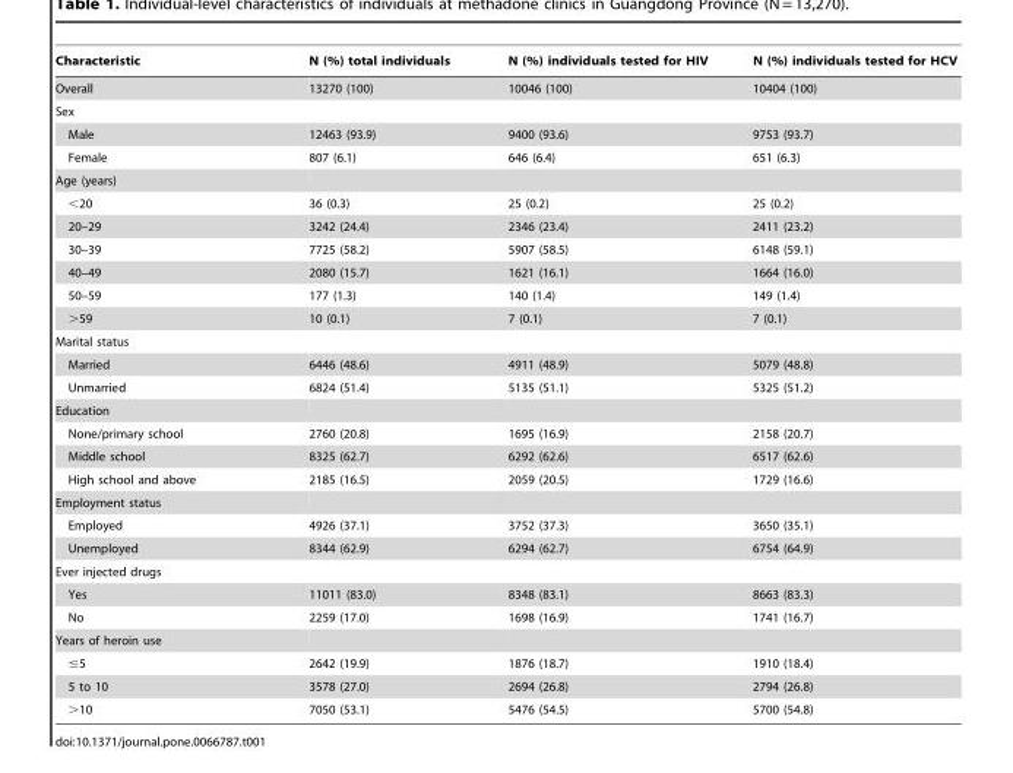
<table><thead><tr><td>Characteristic</td><td>N (%) total individuals</td><td>N (%) individuals tested for HIV</td><td>N (%) individuals tested for HCV</td></tr></thead><tbody><tr><td>Overall</td><td>13270 (100)</td><td>10046 (100)</td><td>10404 (100)</td></tr><tr><td colspan="4">Sex</td></tr><tr><td>Male</td><td>12463 (93.9)</td><td>9400 (93.6)</td><td>9753 (93.7)</td></tr><tr><td>Female</td><td>807 (6.1)</td><td>646 (6.4)</td><td>651 (6.3)</td></tr><tr><td colspan="4">Age (years)</td></tr><tr><td>&lt;20</td><td>36 (0.3)</td><td>25 (0.2)</td><td>25 (0.2)</td></tr><tr><td>20–29</td><td>3242 (24.4)</td><td>2346 (23.4)</td><td>2411 (23.2)</td></tr><tr><td>30–39</td><td>7725 (58.2)</td><td>5907 (58.5)</td><td>6148 (59.1)</td></tr><tr><td>40–49</td><td>2080 (15.7)</td><td>1621 (16.1)</td><td>1664 (16.0)</td></tr><tr><td>50–59</td><td>177 (1.3)</td><td>140 (1.4)</td><td>149 (1.4)</td></tr><tr><td>&gt;59</td><td>10 (0.1)</td><td>7 (0.1)</td><td>7 (0.1)</td></tr><tr><td colspan="4">Marital status</td></tr><tr><td>Married</td><td>6446 (48.6)</td><td>4911 (48.9)</td><td>5079 (48.8)</td></tr><tr><td>Unmarried</td><td>6824 (51.4)</td><td>5135 (51.1)</td><td>5325 (51.2)</td></tr><tr><td colspan="4">Education</td></tr><tr><td>None/primary school</td><td>2760 (20.8)</td><td>1695 (16.9)</td><td>2158 (20.7)</td></tr><tr><td>Middle school</td><td>8325 (62.7)</td><td>6292 (62.6)</td><td>6517 (62.6)</td></tr><tr><td>High school and above</td><td>2185 (16.5)</td><td>2059 (20.5)</td><td>1729 (16.6)</td></tr><tr><td colspan="4">Employment status</td></tr><tr><td>Employed</td><td>4926 (37.1)</td><td>3752 (37.3)</td><td>3650 (35.1)</td></tr><tr><td>Unemployed</td><td>8344 (62.9)</td><td>6294 (62.7)</td><td>6754 (64.9)</td></tr><tr><td colspan="4">Ever injected drugs</td></tr><tr><td>Yes</td><td>11011 (83.0)</td><td>8348 (83.1)</td><td>8663 (83.3)</td></tr><tr><td>No</td><td>2259 (17.0)</td><td>1698 (16.9)</td><td>1741 (16.7)</td></tr><tr><td colspan="4">Years of heroin use</td></tr><tr><td>≤5</td><td>2642 (19.9)</td><td>1876 (18.7)</td><td>1910 (18.4)</td></tr><tr><td>5 to 10</td><td>3578 (27.0)</td><td>2694 (26.8)</td><td>2794 (26.8)</td></tr><tr><td>&gt;10</td><td>7050 (53.1)</td><td>5476 (54.5)</td><td>5700 (54.8)</td></tr></tbody></table>